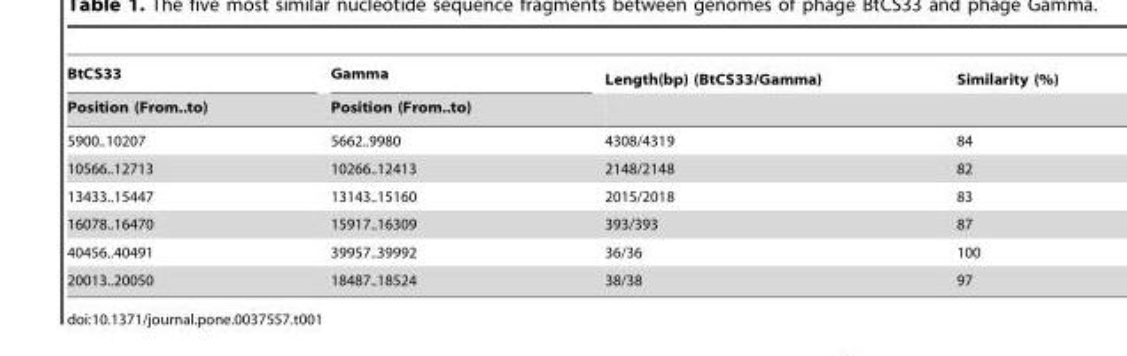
<table><thead><tr><td rowspan="2">BtCS33 Position (From..to)</td><td rowspan="2">Gamma Position (From..to)</td><td rowspan="2">Length(bp) (BtCS33/Gamma)</td><td rowspan="2">Similarity (%)</td></tr><tr></tr></thead><tbody><tr><td>5900..10207</td><td>5662..9980</td><td>4308/4319</td><td>84</td></tr><tr><td>10566..12713</td><td>10266..12413</td><td>2148/2148</td><td>82</td></tr><tr><td>13433..15447</td><td>13143..15160</td><td>2015/2018</td><td>83</td></tr><tr><td>16078..16470</td><td>15917..16309</td><td>393/393</td><td>87</td></tr><tr><td>40456..40491</td><td>39957..39992</td><td>36/36</td><td>100</td></tr><tr><td>20013..20050</td><td>18487..18524</td><td>38/38</td><td>97</td></tr></tbody></table>